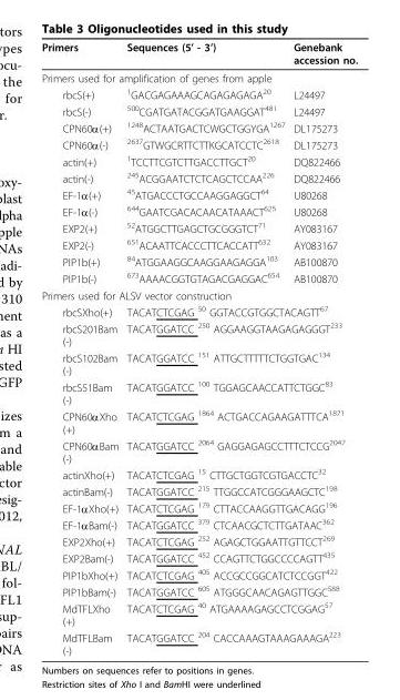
<table><thead><tr><td>Primers</td><td>Sequences (5’ - 3’)</td><td>Genebank accession no.</td></tr></thead><tbody><tr><td colspan="3">Primers used for amplification of genes from apple</td></tr><tr><td>rbcS(+)</td><td><sup>1</sup>GACGAGAAAGCAGAGAGAGA<sup>20</sup></td><td>L24497</td></tr><tr><td>rbcS(-)</td><td><sup>500</sup>CGATGATACGGATGAAGGAT<sup>481</sup></td><td>L24497</td></tr><tr><td>CPN60α(+)</td><td><sup>1248</sup>ACTAATGACTCWGCTGGYGA<sup>1267</sup></td><td>DL175273</td></tr><tr><td>CPN60α(-)</td><td><sup>2637</sup>GTWGCRTTCTTKGCATCCTC<sup>2618</sup></td><td>DL175273</td></tr><tr><td>actin(+)</td><td><sup>1</sup>TCCTTCGTCTTGACCTTGCT<sup>20</sup></td><td>DQ822466</td></tr><tr><td>actin(-)</td><td><sup>245</sup>ACGGAATCTCTCAGCTCCAA<sup>226</sup></td><td>DQ822466</td></tr><tr><td>EF-1α(+)</td><td><sup>45</sup>ATGACCCTGCCAAGGAGGCT<sup>64</sup></td><td>U80268</td></tr><tr><td>EF-1α(-)</td><td><sup>644</sup>GAATCGACACAACATAAACT<sup>625</sup></td><td>U80268</td></tr><tr><td>EXP2(+)</td><td><sup>52</sup>ATGGCTTGAGCTGCGGGTCT<sup>71</sup></td><td>AY083167</td></tr><tr><td>EXP2(-)</td><td><sup>651</sup>ACAATTCACCCTTCACCATT<sup>632</sup></td><td>AY083167</td></tr><tr><td>PIP1b(+)</td><td><sup>84</sup>ATGGAAGGCAAGGAAGAGGA<sup>103</sup></td><td>AB100870</td></tr><tr><td>PIP1b(-)</td><td><sup>673</sup>AAAACGGTGTAGACGAGGAC<sup>654</sup></td><td>AB100870</td></tr><tr><td colspan="3">Primers used for ALSV vector construction</td></tr><tr><td>rbcSXho(+)</td><td colspan="2">TACATCTCGAG <sup>50</sup> GGTACCGTGGCTACAGTT<sup>67</sup></td></tr><tr><td>rbcS201Bam (-)</td><td colspan="2">TACATGGATCC <sup>250</sup> AGGAAGGTAAGAGAGGGT<sup>233</sup></td></tr><tr><td>rbcS102Bam (-)</td><td colspan="2">TACATGGATCC <sup>151</sup> ATTGCTTTTTCTGGTGAC<sup>134</sup></td></tr><tr><td>rbcS51Bam (-)</td><td colspan="2">TACATGGATCC <sup>100</sup> TGGAGCAACCATTCTGGC<sup>83</sup></td></tr><tr><td>CPN60αXho (+)</td><td colspan="2">TACATCTCGAG <sup>1864</sup> ACTGACCAGAAGATTTCA<sup>1871</sup></td></tr><tr><td>CPN60αBam (-)</td><td colspan="2">TACATGGATCC <sup>2064</sup> GAGGAGAGCCTTTCTCCG<sup>2047</sup></td></tr><tr><td>actinXho(+)</td><td colspan="2">TACATCTCGAG <sup>15</sup> CTTGCTGGTCGTGACCTC<sup>32</sup></td></tr><tr><td>actinBam(-)</td><td colspan="2">TACATGGATCC <sup>215</sup> TTGGCCATCGGGAAGCTC<sup>198</sup></td></tr><tr><td>EF-1αXho(+)</td><td colspan="2">TACATCTCGAG <sup>179</sup> CTTACCAAGGTTGACAGG<sup>196</sup></td></tr><tr><td>EF-1αBam(-)</td><td colspan="2">TACATGGATCC <sup>379</sup> CTCAACGCTCTTGATAAC<sup>362</sup></td></tr><tr><td>EXP2Xho(+)</td><td colspan="2">TACATCTCGAG <sup>252</sup> AGAGCTGGAATTGTTCCT<sup>269</sup></td></tr><tr><td>EXP2Bam(-)</td><td colspan="2">TACATGGATCC <sup>452</sup> CCAGTTCTGGCCCCAGTT<sup>435</sup></td></tr><tr><td>PIP1bXho(+)</td><td colspan="2">TACATCTCGAG <sup>405</sup> ACCGCCGGCATCTCCGGT<sup>422</sup></td></tr><tr><td>PIP1bBam(-)</td><td colspan="2">TACATGGATCC <sup>605</sup> ATGGGCAACAGAGTTGGC<sup>588</sup></td></tr><tr><td>MdTFLXho (+)</td><td colspan="2">TACATCTCGAG <sup>40</sup> ATGAAAAGAGCCTCGGAG<sup>57</sup></td></tr><tr><td>MdTFLBam (-)</td><td colspan="2">TACATGGATCC <sup>204</sup> CACCAAAGTAAAGAAAGA<sup>223</sup></td></tr></tbody></table>